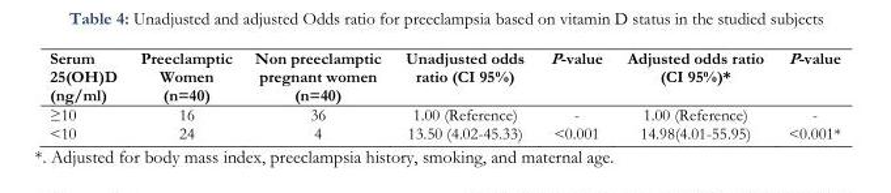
<table><tbody><tr><td>Serum 25(OH)D (ng/ml)</td><td>Preeclamptic Women (n=40)</td><td>Non preeclamptic pregnant women (n=40)</td><td>Unadjusted odds ratio (CI 95%)</td><td>P-value</td><td>Adjusted odds ratio (CI 95%)*</td><td>P-value</td></tr><tr><td>≥10</td><td>16</td><td>36</td><td>1.00 (Reference)</td><td>-</td><td>1.00 (Reference)</td><td>-</td></tr><tr><td>&lt;10</td><td>24</td><td>4</td><td>13.50 (4.02-45.33)</td><td>&lt;0.001</td><td>14.98(4.01-55.95)</td><td>&lt;0.001*</td></tr></tbody></table>